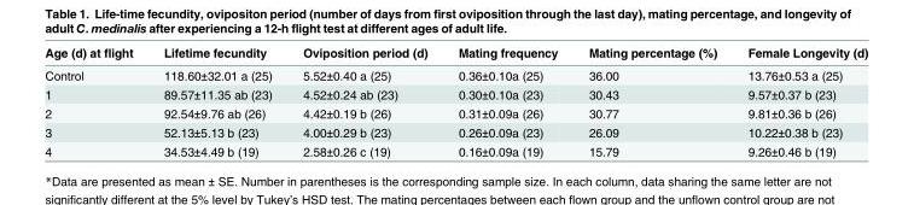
<table><thead><tr><td>Age (d) at flight</td><td>Lifetime fecundity</td><td>Oviposition period (d)</td><td>Mating frequency</td><td>Mating percentage (%)</td><td>Female Longevity (d)</td></tr></thead><tbody><tr><td>Control</td><td>118.60±32.01 a (25)</td><td>5.52±0.40 a (25)</td><td>0.36±0.10a (25)</td><td>36.00</td><td>13.76±0.53 a (25)</td></tr><tr><td>1</td><td>89.57±11.35 ab (23)</td><td>4.52±0.24 ab (23)</td><td>0.30±0.10a (23)</td><td>30.43</td><td>9.57±0.37 b (23)</td></tr><tr><td>2</td><td>92.54±9.76 ab (26)</td><td>4.42±0.19 b (26)</td><td>0.31±0.09a (26)</td><td>30.77</td><td>9.81±0.36 b (26)</td></tr><tr><td>3</td><td>52.13±5.13 b (23)</td><td>4.00±0.29 b (23)</td><td>0.26±0.09a (23)</td><td>26.09</td><td>10.22±0.38 b (23)</td></tr><tr><td>4</td><td>34.53±4.49 b (19)</td><td>2.58±0.26 c (19)</td><td>0.16±0.09a (19)</td><td>15.79</td><td>9.26±0.46 b (19)</td></tr></tbody></table>